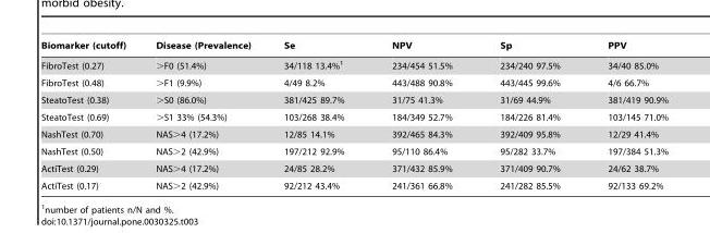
<table><thead><tr><td>Biomarker (cutoff)</td><td>Disease (Prevalence)</td><td>Se</td><td>NPV</td><td>Sp</td><td>PPV</td></tr></thead><tbody><tr><td>FibroTest (0.27)</td><td>&gt;F0 (51.4%)</td><td>34/118 13.4%<sup>1</sup></td><td>234/454 51.5%</td><td>234/240 97.5%</td><td>34/40 85.0%</td></tr><tr><td>FibroTest (0.48)</td><td>&gt;F1 (9.9%)</td><td>4/49 8.2%</td><td>443/488 90.8%</td><td>443/445 99.6%</td><td>4/6 66.7%</td></tr><tr><td>SteatoTest (0.38)</td><td>&gt;S0 (86.0%)</td><td>381/425 89.7%</td><td>31/75 41.3%</td><td>31/69 44.9%</td><td>381/419 90.9%</td></tr><tr><td>SteatoTest (0.69)</td><td>&gt;S1 33% (54.3%)</td><td>103/268 38.4%</td><td>184/349 52.7%</td><td>184/226 81.4%</td><td>103/145 71.0%</td></tr><tr><td>NashTest (0.70)</td><td>NAS&gt;4 (17.2%)</td><td>12/85 14.1%</td><td>392/465 84.3%</td><td>392/409 95.8%</td><td>12/29 41.4%</td></tr><tr><td>NashTest (0.50)</td><td>NAS&gt;2 (42.9%)</td><td>197/212 92.9%</td><td>95/110 86.4%</td><td>95/282 33.7%</td><td>197/384 51.3%</td></tr><tr><td>ActiTest (0.29)</td><td>NAS&gt;4 (17.2%)</td><td>24/85 28.2%</td><td>371/432 85.9%</td><td>371/409 90.7%</td><td>24/62 38.7%</td></tr><tr><td>ActiTest (0.17)</td><td>NAS&gt;2 (42.9%)</td><td>92/212 43.4%</td><td>241/361 66.8%</td><td>241/282 85.5%</td><td>92/133 69.2%</td></tr></tbody></table>